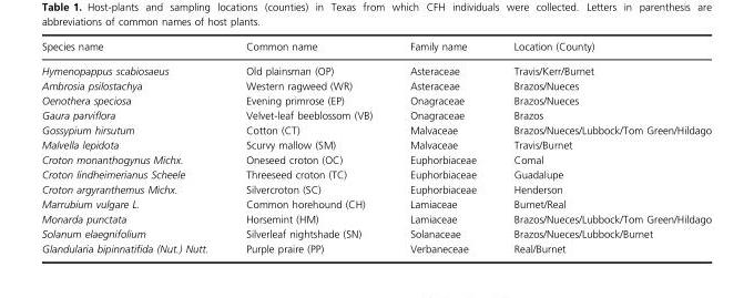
<table><thead><tr><td>Species name</td><td>Common name</td><td>Family name</td><td>Location (County)</td></tr></thead><tbody><tr><td>Hymenopappus scabiosaeus</td><td>Old plainsman (OP)</td><td>Asteraceae</td><td>Travis/Kerr/Burnet</td></tr><tr><td>Ambrosia psilostachya</td><td>Western ragweed (WR)</td><td>Asteraceae</td><td>Brazos/Nueces</td></tr><tr><td>Oenothera speciosa</td><td>Evening primrose (EP)</td><td>Onagraceae</td><td>Brazos/Nueces</td></tr><tr><td>Gaura parviflora</td><td>Velvet-leaf beeblossom (VB)</td><td>Onagraceae</td><td>Brazos</td></tr><tr><td>Gossypium hirsutum</td><td>Cotton (CT)</td><td>Malvaceae</td><td>Brazos/Nueces/Lubbock/Tom Green/Hildago</td></tr><tr><td>Malvella lepidota</td><td>Scurvy mallow (SM)</td><td>Malvaceae</td><td>Travis/Burnet</td></tr><tr><td>Croton monanthogynus Michx.</td><td>Oneseed croton (OC)</td><td>Euphorbiaceae</td><td>Comal</td></tr><tr><td>Croton lindheimerianus Scheele</td><td>Threeseed croton (TC)</td><td>Euphorbiaceae</td><td>Guadalupe</td></tr><tr><td>Croton argyranthemus Michx.</td><td>Silvercroton (SC)</td><td>Euphorbiaceae</td><td>Henderson</td></tr><tr><td>Marrubium vulgare L.</td><td>Common horehound (CH)</td><td>Lamiaceae</td><td>Burnet/Real</td></tr><tr><td>Monarda punctata</td><td>Horsemint (HM)</td><td>Lamiaceae</td><td>Brazos/Nueces/Lubbock/Tom Green/Hildago</td></tr><tr><td>Solanum elaegnifolium</td><td>Silverleaf nightshade (SN)</td><td>Solanaceae</td><td>Brazos/Nueces/Lubbock/Burnet</td></tr><tr><td>Glandularia bipinnatifida (Nut.) Nutt.</td><td>Purple praire (PP)</td><td>Verbaneceae</td><td>Real/Burnet</td></tr></tbody></table>